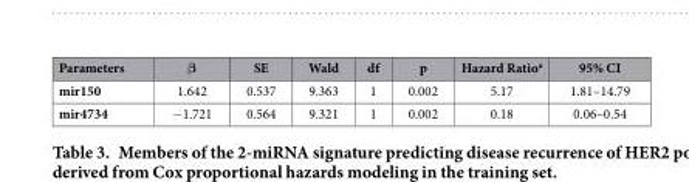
<table><thead><tr><td>Parameters</td><td>β</td><td>SE</td><td>Wald</td><td>df</td><td>p</td><td>Hazard Ratio<sup>a</sup></td><td>95% CI</td></tr></thead><tbody><tr><td>mir150</td><td>1.642</td><td>0.537</td><td>9.363</td><td>1</td><td>0.002</td><td>5.17</td><td>1.81–14.79</td></tr><tr><td>mir4734</td><td>− 1.721</td><td>0.564</td><td>9.321</td><td>1</td><td>0.002</td><td>0.18</td><td>0.06–0.54</td></tr></tbody></table>